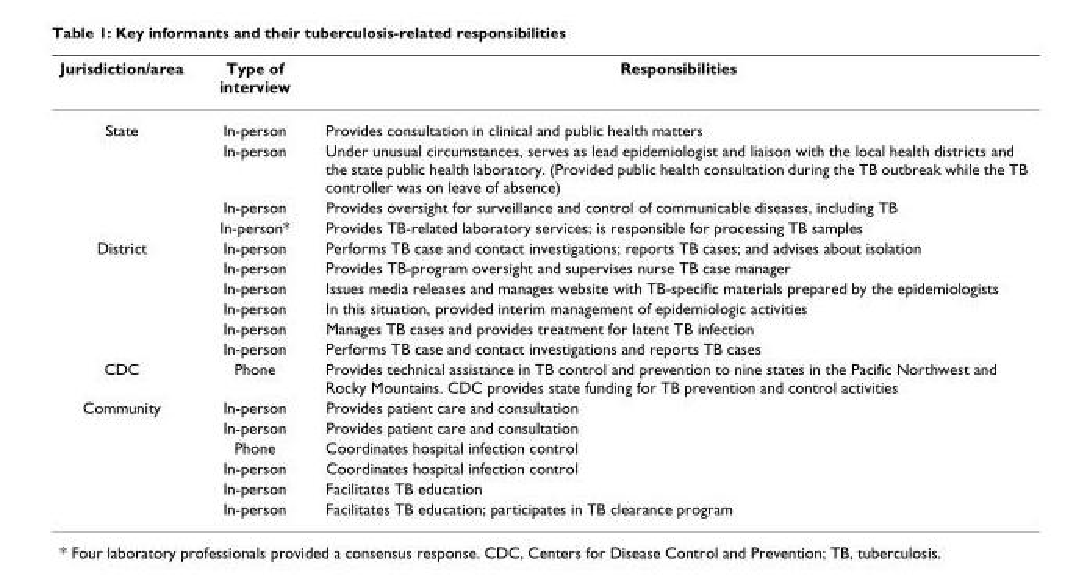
<table><thead><tr><td>Jurisdiction/area</td><td>Type of interview</td><td>Responsibilities</td></tr></thead><tbody><tr><td rowspan="4">State</td><td>In-person</td><td>Provides consultation in clinical and public health matters</td></tr><tr><td>In-person</td><td>Under unusual circumstances, serves as lead epidemiologist and liaison with the local health districts and the state public health laboratory. (Provided public health consultation during the TB outbreak while the TB controller was on leave of absence)</td></tr><tr><td>In-person</td><td>Provides oversight for surveillance and control of communicable diseases, including TB</td></tr><tr><td>In-person*</td><td>Provides TB-related laboratory services; is responsible for processing TB samples</td></tr><tr><td rowspan="6">District</td><td>In-person</td><td>Performs TB case and contact investigations; reports TB cases; and advises about isolation</td></tr><tr><td>In-person</td><td>Provides TB-program oversight and supervises nurse TB case manager</td></tr><tr><td>In-person</td><td>Issues media releases and manages website with TB-specific materials prepared by the epidemiologists</td></tr><tr><td>In-person</td><td>In this situation, provided interim management of epidemiologic activities</td></tr><tr><td>In-person</td><td>Manages TB cases and provides treatment for latent TB infection</td></tr><tr><td>In-person</td><td>Performs TB case and contact investigations and reports TB cases</td></tr><tr><td>CDC</td><td>Phone</td><td>Provides technical assistance in TB control and prevention to nine states in the Pacific Northwest and Rocky Mountains. CDC provides state funding for TB prevention and control activities</td></tr><tr><td rowspan="6">Community</td><td>In-person</td><td>Provides patient care and consultation</td></tr><tr><td>In-person</td><td>Provides patient care and consultation</td></tr><tr><td>Phone</td><td>Coordinates hospital infection control</td></tr><tr><td>In-person</td><td>Coordinates hospital infection control</td></tr><tr><td>In-person</td><td>Facilitates TB education</td></tr><tr><td>In-person</td><td>Facilitates TB education; participates in TB clearance program</td></tr></tbody></table>